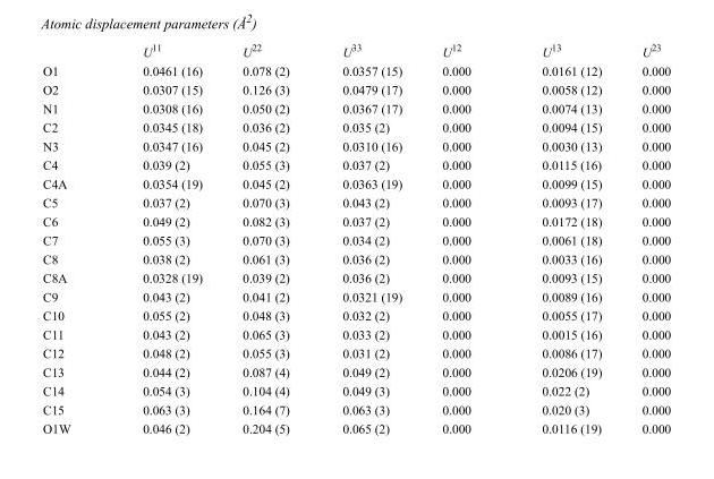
<table><thead><tr><td></td><td>U<sup>11</sup></td><td>U<sup>22</sup></td><td>U<sup>33</sup></td><td>U<sup>12</sup></td><td>U<sup>13</sup></td><td>U<sup>23</sup></td></tr></thead><tbody><tr><td>O1</td><td>0.0461 (16)</td><td>0.078 (2)</td><td>0.0357 (15)</td><td>0.000</td><td>0.0161 (12)</td><td>0.000</td></tr><tr><td>O2</td><td>0.0307 (15)</td><td>0.126 (3)</td><td>0.0479 (17)</td><td>0.000</td><td>0.0058 (12)</td><td>0.000</td></tr><tr><td>N1</td><td>0.0308 (16)</td><td>0.050 (2)</td><td>0.0367 (17)</td><td>0.000</td><td>0.0074 (13)</td><td>0.000</td></tr><tr><td>C2</td><td>0.0345 (18)</td><td>0.036 (2)</td><td>0.035 (2)</td><td>0.000</td><td>0.0094 (15)</td><td>0.000</td></tr><tr><td>N3</td><td>0.0347 (16)</td><td>0.045 (2)</td><td>0.0310 (16)</td><td>0.000</td><td>0.0030 (13)</td><td>0.000</td></tr><tr><td>C4</td><td>0.039 (2)</td><td>0.055 (3)</td><td>0.037 (2)</td><td>0.000</td><td>0.0115 (16)</td><td>0.000</td></tr><tr><td>C4A</td><td>0.0354 (19)</td><td>0.045 (2)</td><td>0.0363 (19)</td><td>0.000</td><td>0.0099 (15)</td><td>0.000</td></tr><tr><td>C5</td><td>0.037 (2)</td><td>0.070 (3)</td><td>0.043 (2)</td><td>0.000</td><td>0.0093 (17)</td><td>0.000</td></tr><tr><td>C6</td><td>0.049 (2)</td><td>0.082 (3)</td><td>0.037 (2)</td><td>0.000</td><td>0.0172 (18)</td><td>0.000</td></tr><tr><td>C7</td><td>0.055 (3)</td><td>0.070 (3)</td><td>0.034 (2)</td><td>0.000</td><td>0.0061 (18)</td><td>0.000</td></tr><tr><td>C8</td><td>0.038 (2)</td><td>0.061 (3)</td><td>0.036 (2)</td><td>0.000</td><td>0.0033 (16)</td><td>0.000</td></tr><tr><td>C8A</td><td>0.0328 (19)</td><td>0.039 (2)</td><td>0.036 (2)</td><td>0.000</td><td>0.0093 (15)</td><td>0.000</td></tr><tr><td>C9</td><td>0.043 (2)</td><td>0.041 (2)</td><td>0.0321 (19)</td><td>0.000</td><td>0.0089 (16)</td><td>0.000</td></tr><tr><td>C10</td><td>0.055 (2)</td><td>0.048 (3)</td><td>0.032 (2)</td><td>0.000</td><td>0.0055 (17)</td><td>0.000</td></tr><tr><td>C11</td><td>0.043 (2)</td><td>0.065 (3)</td><td>0.033 (2)</td><td>0.000</td><td>0.0015 (16)</td><td>0.000</td></tr><tr><td>C12</td><td>0.048 (2)</td><td>0.055 (3)</td><td>0.031 (2)</td><td>0.000</td><td>0.0086 (17)</td><td>0.000</td></tr><tr><td>C13</td><td>0.044 (2)</td><td>0.087 (4)</td><td>0.049 (2)</td><td>0.000</td><td>0.0206 (19)</td><td>0.000</td></tr><tr><td>C14</td><td>0.054 (3)</td><td>0.104 (4)</td><td>0.049 (3)</td><td>0.000</td><td>0.022 (2)</td><td>0.000</td></tr><tr><td>C15</td><td>0.063 (3)</td><td>0.164 (7)</td><td>0.063 (3)</td><td>0.000</td><td>0.020 (3)</td><td>0.000</td></tr><tr><td>O1W</td><td>0.046 (2)</td><td>0.204 (5)</td><td>0.065 (2)</td><td>0.000</td><td>0.0116 (19)</td><td>0.000</td></tr></tbody></table>